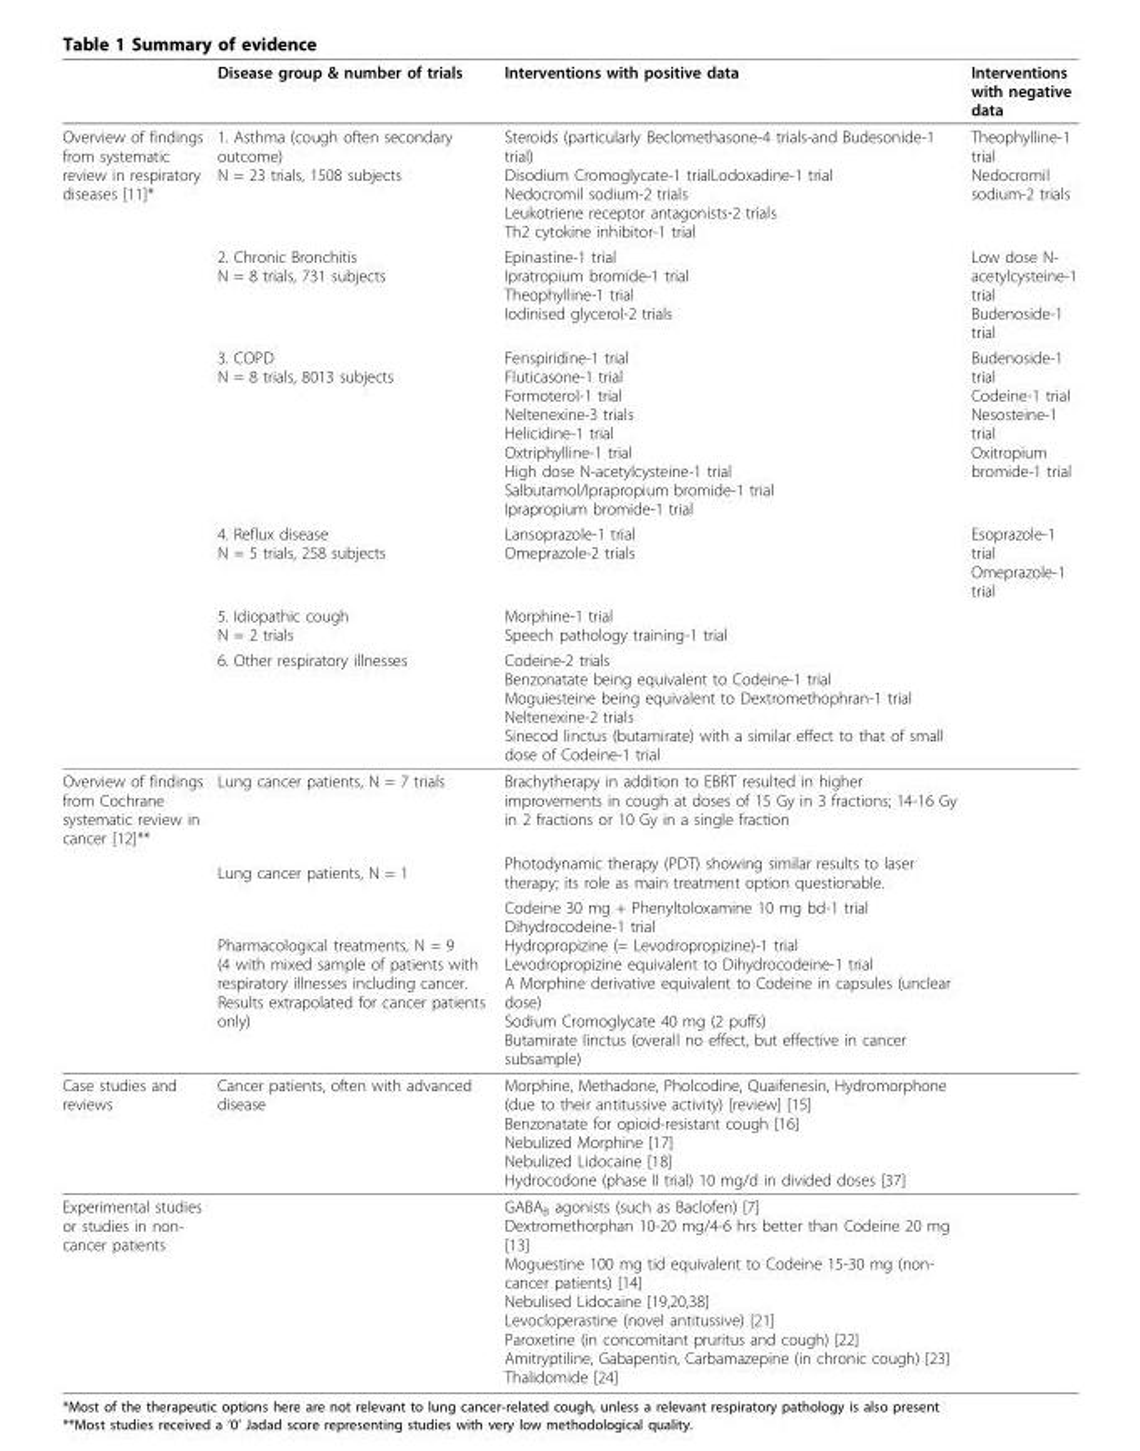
<table><thead><tr><td></td><td>Disease group &amp; number of trials</td><td>Interventions with positive data</td><td>Interventions with negative data</td></tr></thead><tbody><tr><td rowspan="6">Overview of findings from systematic review in respiratory diseases [11]*</td><td>1. Asthma (cough often secondary outcome) N = 23 trials, 1508 subjects</td><td>Steroids (particularly Beclomethasone-4 trials-and Budesonide-1 trial) Disodium Cromoglycate-1 trialLodoxadine-1 trial Nedocromil sodium-2 trials Leukotriene receptor antagonists-2 trials Th2 cytokine inhibitor-1 trial</td><td>Theophylline-1 trial Nedocromil sodium-2 trials</td></tr><tr><td>2. Chronic Bronchitis N = 8 trials, 731 subjects</td><td>Epinastine-1 trial Ipratropium bromide-1 trial Theophylline-1 trial Iodinised glycerol-2 trials</td><td>Low dose N- acetylcysteine-1 trial Budenoside-1 trial</td></tr><tr><td>3. COPD N = 8 trials, 8013 subjects</td><td>Fenspiridine-1 trial Fluticasone-1 trial Formoterol-1 trial Neltenexine-3 trials Helicidine-1 trial Oxtriphylline-1 trial High dose N-acetylcysteine-1 trial Salbutamol/Iprapropium bromide-1 trial Iprapropium bromide-1 trial</td><td>Budenoside-1 trial Codeine-1 trial Nesosteine-1 trial Oxitropium bromide-1 trial</td></tr><tr><td>4. Reflux disease N = 5 trials, 258 subjects</td><td>Lansoprazole-1 trial Omeprazole-2 trials</td><td>Esoprazole-1 trial Omeprazole-1 trial</td></tr><tr><td>5. Idiopathic cough N = 2 trials</td><td>Morphine-1 trial Speech pathology training-1 trial</td><td></td></tr><tr><td>6. Other respiratory illnesses</td><td>Codeine-2 trials Benzonatate being equivalent to Codeine-1 trial Moguiesteine being equivalent to Dextromethophran-1 trial Neltenexine-2 trials Sinecod linctus (butamirate) with a similar effect to that of small dose of Codeine-1 trial</td><td></td></tr><tr><td rowspan="3">Overview of findings from Cochrane systematic review in cancer [12]**</td><td>Lung cancer patients, N = 7 trials</td><td>Brachytherapy in addition to EBRT resulted in higher improvements in cough at doses of 15 Gy in 3 fractions; 14-16 Gy in 2 fractions or 10 Gy in a single fraction</td><td></td></tr><tr><td>Lung cancer patients, N = 1</td><td>Photodynamic therapy (PDT) showing similar results to laser therapy; its role as main treatment option questionable.</td><td></td></tr><tr><td>Pharmacological treatments, N = 9 (4 with mixed sample of patients with respiratory illnesses including cancer. Results extrapolated for cancer patients only)</td><td>Codeine 30 mg + Phenyltoloxamine 10 mg bd-1 trial Dihydrocodeine-1 trial Hydropropizine (= Levodropropizine)-1 trial Levodropropizine equivalent to Dihydrocodeine-1 trial A Morphine derivative equivalent to Codeine in capsules (unclear dose) Sodium Cromoglycate 40 mg (2 puffs) Butamirate linctus (overall no effect, but effective in cancer subsample)</td><td></td></tr><tr><td>Case studies and reviews</td><td>Cancer patients, often with advanced disease</td><td>Morphine, Methadone, Pholcodine, Quaifenesin, Hydromorphone (due to their antitussive activity) [review] [15] Benzonatate for opioid-resistant cough [16] Nebulized Morphine [17] Nebulized Lidocaine [18] Hydrocodone (phase II trial) 10 mg/d in divided doses [37]</td><td></td></tr><tr><td>Experimental studies or studies in non- cancer patients</td><td></td><td>GABA<sub>B</sub> agonists (such as Baclofen) [7] Dextromethorphan 10-20 mg/4-6 hrs better than Codeine 20 mg [13] Moguestine 100 mg tid equivalent to Codeine 15-30 mg (non- cancer patients) [14] Nebulised Lidocaine [19,20,38] Levocloperastine (novel antitussive) [21] Paroxetine (in concomitant pruritus and cough) [22] Amitryptiline, Gabapentin, Carbamazepine (in chronic cough) [23] Thalidomide [24]</td><td></td></tr></tbody></table>